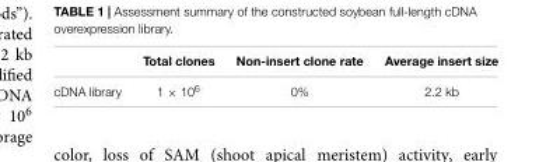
<table><thead><tr><td></td><td>Total clones</td><td>Non-insert clone rate</td><td>Average insert size</td></tr></thead><tbody><tr><td>cDNA library</td><td>1 × 10<sup>6</sup></td><td>0%</td><td>2.2 kb</td></tr></tbody></table>